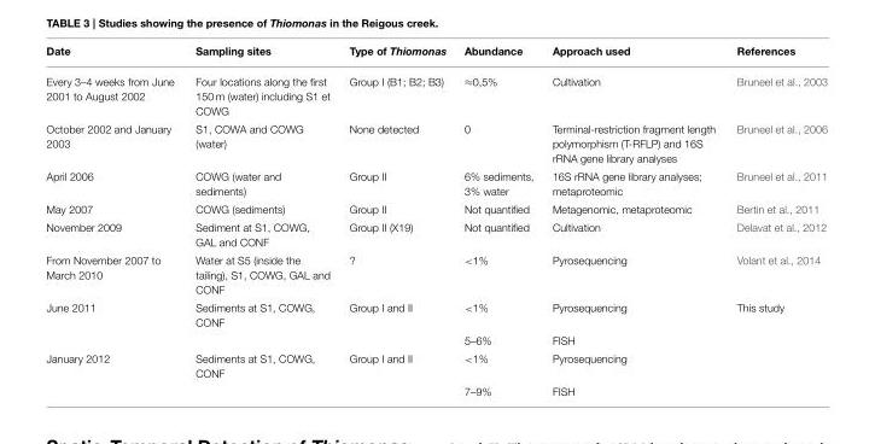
<table><thead><tr><td>Date</td><td>Sampling sites</td><td>Type of Thiomonas</td><td>Abundance</td><td>Approach used</td><td>References</td></tr></thead><tbody><tr><td>Every 3–4 weeks from June 2001 to August 2002</td><td>Four locations along the first 150 m (water) including S1 et COWG</td><td>Group I (B1; B2; B3)</td><td>≈0,5%</td><td>Cultivation</td><td>Bruneel et al., 2003</td></tr><tr><td>October 2002 and January 2003</td><td>S1, COWA and COWG (water)</td><td>None detected</td><td>0</td><td>Terminal-restriction fragment length polymorphism (T-RFLP) and 16S rRNA gene library analyses</td><td>Bruneel et al., 2006</td></tr><tr><td>April 2006</td><td>COWG (water and sediments)</td><td>Group II</td><td>6% sediments, 3% water</td><td>16S rRNA gene library analyses; metaproteomic</td><td>Bruneel et al., 2011</td></tr><tr><td>May 2007</td><td>COWG (sediments)</td><td>Group II</td><td>Not quantified</td><td>Metagenomic, metaproteomic</td><td>Bertin et al., 2011</td></tr><tr><td>November 2009</td><td>Sediment at S1, COWG, GAL and CONF</td><td>Group II (X19)</td><td>Not quantified</td><td>Cultivation</td><td>Delavat et al., 2012</td></tr><tr><td>From November 2007 to March 2010</td><td>Water at S5 (inside the tailing), S1, COWG, GAL and CONF</td><td>?</td><td>&lt;1%</td><td>Pyrosequencing</td><td>Volant et al., 2014</td></tr><tr><td rowspan="2">June 2011</td><td>Sediments at S1, COWG, CONF</td><td>Group I and II</td><td>&lt;1%</td><td>Pyrosequencing</td><td>This study</td></tr><tr><td></td><td></td><td>5–6%</td><td>FISH</td><td></td></tr><tr><td rowspan="2">January 2012</td><td>Sediments at S1, COWG, CONF</td><td>Group I and II</td><td>&lt;1%</td><td>Pyrosequencing</td><td></td></tr><tr><td></td><td></td><td>7–9%</td><td>FISH</td><td></td></tr></tbody></table>